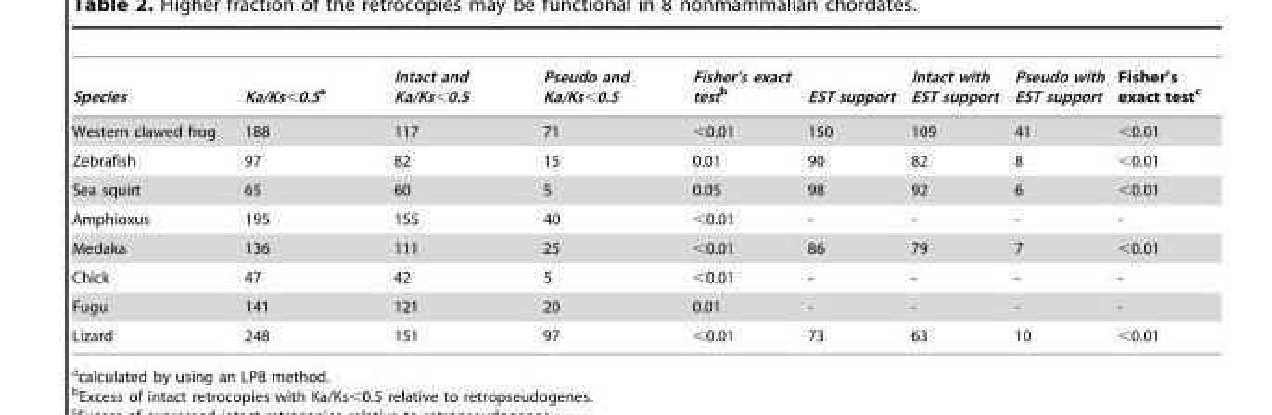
<table><thead><tr><td>Species</td><td>Ka/Ks&lt;0.5a</td><td>Intact and Ka/Ks&lt;0.5</td><td>Pseudo and Ka/Ks&lt;0.5</td><td>Fisher’s exact testb</td><td>EST support</td><td>Intact with EST support</td><td>Pseudo with EST support</td><td>Fisher’s exact test<sup>c</sup></td></tr></thead><tbody><tr><td>Western clawed frog</td><td>188</td><td>117</td><td>71</td><td>&lt;0.01</td><td>150</td><td>109</td><td>41</td><td>&lt;0.01</td></tr><tr><td>Zebrafish</td><td>97</td><td>82</td><td>15</td><td>0.01</td><td>90</td><td>82</td><td>8</td><td>&lt;0.01</td></tr><tr><td>Sea squirt</td><td>65</td><td>60</td><td>5</td><td>0.05</td><td>98</td><td>92</td><td>6</td><td>&lt;0.01</td></tr><tr><td>Amphioxus</td><td>195</td><td>155</td><td>40</td><td>&lt;0.01</td><td>-</td><td>-</td><td>-</td><td>-</td></tr><tr><td>Medaka</td><td>136</td><td>111</td><td>25</td><td>&lt;0.01</td><td>86</td><td>79</td><td>7</td><td>&lt;0.01</td></tr><tr><td>Chick</td><td>47</td><td>42</td><td>5</td><td>&lt;0.01</td><td>-</td><td>-</td><td>-</td><td>-</td></tr><tr><td>Fugu</td><td>141</td><td>121</td><td>20</td><td>0.01</td><td>-</td><td>-</td><td>-</td><td>-</td></tr><tr><td>Lizard</td><td>248</td><td>151</td><td>97</td><td>&lt;0.01</td><td>73</td><td>63</td><td>10</td><td>&lt;0.01</td></tr></tbody></table>